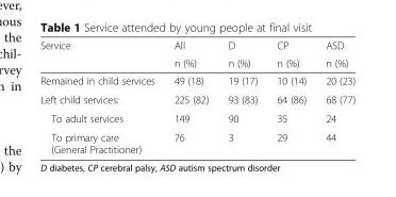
<table><thead><tr><td rowspan="2">Service</td><td rowspan="2">All n (%)</td><td rowspan="2">D n (%)</td><td rowspan="2">CP n (%)</td><td rowspan="2">ASD n (%)</td></tr><tr></tr></thead><tbody><tr><td>Remained in child services</td><td>49 (18)</td><td>19 (17)</td><td>10 (14)</td><td>20 (23)</td></tr><tr><td>Left child services:</td><td>225 (82)</td><td>93 (83)</td><td>64 (86)</td><td>68 (77)</td></tr><tr><td>To adult services</td><td>149</td><td>90</td><td>35</td><td>24</td></tr><tr><td>To primary care (General Practitioner)</td><td>76</td><td>3</td><td>29</td><td>44</td></tr></tbody></table>